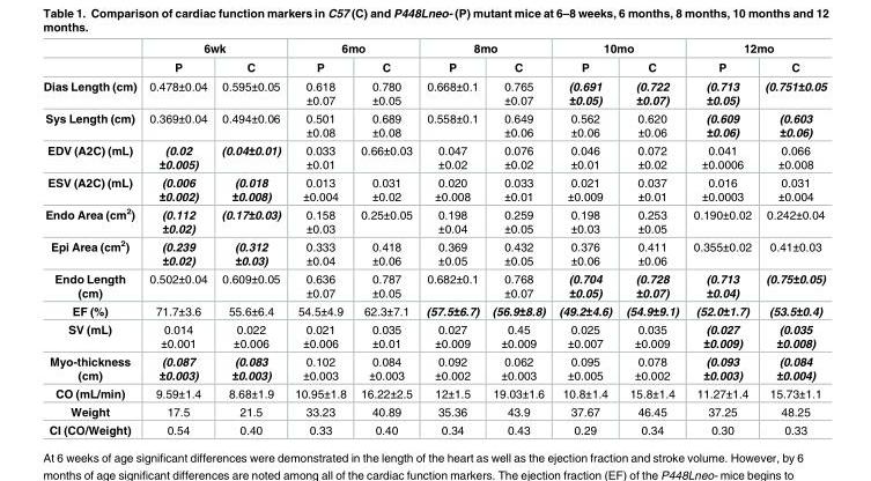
<table><thead><tr><td rowspan="2"></td><td colspan="2">6wk</td><td colspan="2">6mo</td><td colspan="2">8mo</td><td colspan="2">10mo</td><td colspan="2">12mo</td></tr><tr><td>P</td><td>C</td><td>P</td><td>C</td><td>P</td><td>C</td><td>P</td><td>C</td><td>P</td><td>C</td></tr></thead><tbody><tr><td>Dias Length (cm)</td><td>0.478±0.04</td><td>0.595±0.05</td><td>0.618 ±0.07</td><td>0.780 ±0.05</td><td>0.668±0.1</td><td>0.765 ±0.07</td><td>(0.691 ±0.05)</td><td>(0.722 ±0.07)</td><td>(0.713 ±0.05)</td><td>(0.751±0.05</td></tr><tr><td>Sys Length (cm)</td><td>0.369±0.04</td><td>0.494±0.06</td><td>0.501 ±0.08</td><td>0.689 ±0.08</td><td>0.558±0.1</td><td>0.649 ±0.06</td><td>0.562 ±0.06</td><td>0.620 ±0.06</td><td>(0.609 ±0.06)</td><td>(0.603 ±0.06)</td></tr><tr><td>EDV (A2C) (mL)</td><td>(0.02 ±0.005)</td><td>(0.04±0.01)</td><td>0.033 ±0.01</td><td>0.66±0.03</td><td>0.047 ±0.02</td><td>0.076 ±0.02</td><td>0.046 ±0.01</td><td>0.072 ±0.02</td><td>0.041 ±0.0006</td><td>0.066 ±0.008</td></tr><tr><td>ESV (A2C) (mL)</td><td>(0.006 ±0.002)</td><td>(0.018 ±0.008)</td><td>0.013 ±0.004</td><td>0.031 ±0.02</td><td>0.020 ±0.008</td><td>0.033 ±0.01</td><td>0.021 ±0.009</td><td>0.037 ±0.01</td><td>0.016 ±0.0003</td><td>0.031 ±0.004</td></tr><tr><td>Endo Area (cm<sup>2</sup>)</td><td>(0.112 ±0.02)</td><td>(0.17±0.03)</td><td>0.158 ±0.03</td><td>0.25±0.05</td><td>0.198 ±0.04</td><td>0.259 ±0.05</td><td>0.198 ±0.03</td><td>0.253 ±0.05</td><td>0.190±0.02</td><td>0.242±0.04</td></tr><tr><td>Epi Area (cm<sup>2</sup>)</td><td>(0.239 ±0.02)</td><td>(0.312 ±0.03)</td><td>0.333 ±0.04</td><td>0.418 ±0.06</td><td>0.369 ±0.05</td><td>0.432 ±0.05</td><td>0.376 ±0.06</td><td>0.411 ±0.06</td><td>0.355±0.02</td><td>0.41±0.03</td></tr><tr><td>Endo Length (cm)</td><td>0.502±0.04</td><td>0.609±0.05</td><td>0.636 ±0.07</td><td>0.787 ±0.05</td><td>0.682±0.1</td><td>0.768 ±0.07</td><td>(0.704 ±0.05)</td><td>(0.728 ±0.07)</td><td>(0.713 ±0.04)</td><td>(0.75±0.05)</td></tr><tr><td>EF (%)</td><td>71.7±3.6</td><td>55.6±6.4</td><td>54.5±4.9</td><td>62.3±7.1</td><td>(57.5±6.7)</td><td>(56.9±8.8)</td><td>(49.2±4.6)</td><td>(54.9±9.1)</td><td>(52.0±1.7)</td><td>(53.5±0.4)</td></tr><tr><td>SV (mL)</td><td>0.014 ±0.001</td><td>0.022 ±0.006</td><td>0.021 ±0.006</td><td>0.035 ±0.01</td><td>0.027 ±0.009</td><td>0.45 ±0.009</td><td>0.025 ±0.007</td><td>0.035 ±0.009</td><td>(0.027 ±0.009)</td><td>(0.035 ±0.008)</td></tr><tr><td>Myo-thickness (cm)</td><td>(0.087 ±0.003)</td><td>(0.083 ±0.003)</td><td>0.102 ±0.003</td><td>0.084 ±0.003</td><td>0.092 ±0.002</td><td>0.062 ±0.003</td><td>0.095 ±0.005</td><td>0.078 ±0.002</td><td>(0.093 ±0.003)</td><td>(0.084 ±0.004)</td></tr><tr><td>CO (mL/min)</td><td>9.59±1.4</td><td>8.68±1.9</td><td>10.95±1.8</td><td>16.22±2.5</td><td>12±1.5</td><td>19.03±1.6</td><td>10.8±1.4</td><td>15.8±1.4</td><td>11.27±1.4</td><td>15.73±1.1</td></tr><tr><td>Weight</td><td>17.5</td><td>21.5</td><td>33.23</td><td>40.89</td><td>35.36</td><td>43.9</td><td>37.67</td><td>46.45</td><td>37.25</td><td>48.25</td></tr><tr><td>CI (CO/Weight)</td><td>0.54</td><td>0.40</td><td>0.33</td><td>0.40</td><td>0.34</td><td>0.43</td><td>0.29</td><td>0.34</td><td>0.30</td><td>0.33</td></tr></tbody></table>